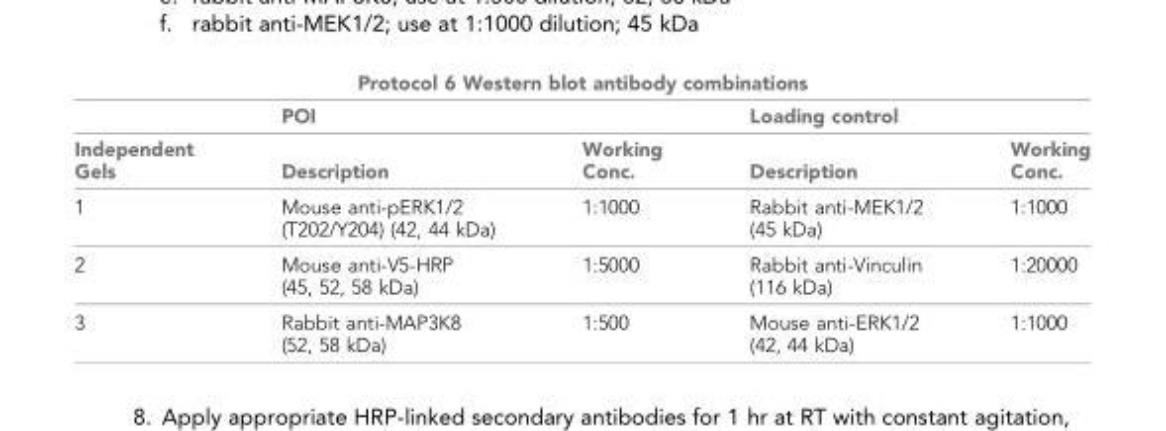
<table><thead><tr><td colspan="5">Protocol 6 Western blot antibody combinations</td></tr><tr><td rowspan="2">Independent Gels</td><td colspan="2">POI</td><td colspan="2">Loading control</td></tr><tr><td>Description</td><td>Working Conc.</td><td>Description</td><td>Working Conc.</td></tr></thead><tbody><tr><td>1</td><td>Mouse anti-pERK1/2 (T202/Y204) (42, 44 kDa)</td><td>1:1000</td><td>Rabbit anti-MEK1/2 (45 kDa)</td><td>1:1000</td></tr><tr><td>2</td><td>Mouse anti-V5-HRP (45, 52, 58 kDa)</td><td>1:5000</td><td>Rabbit anti-Vinculin (116 kDa)</td><td>1:20000</td></tr><tr><td>3</td><td>Rabbit anti-MAP3K8 (52, 58 kDa)</td><td>1:500</td><td>Mouse anti-ERK1/2 (42, 44 kDa)</td><td>1:1000</td></tr></tbody></table>